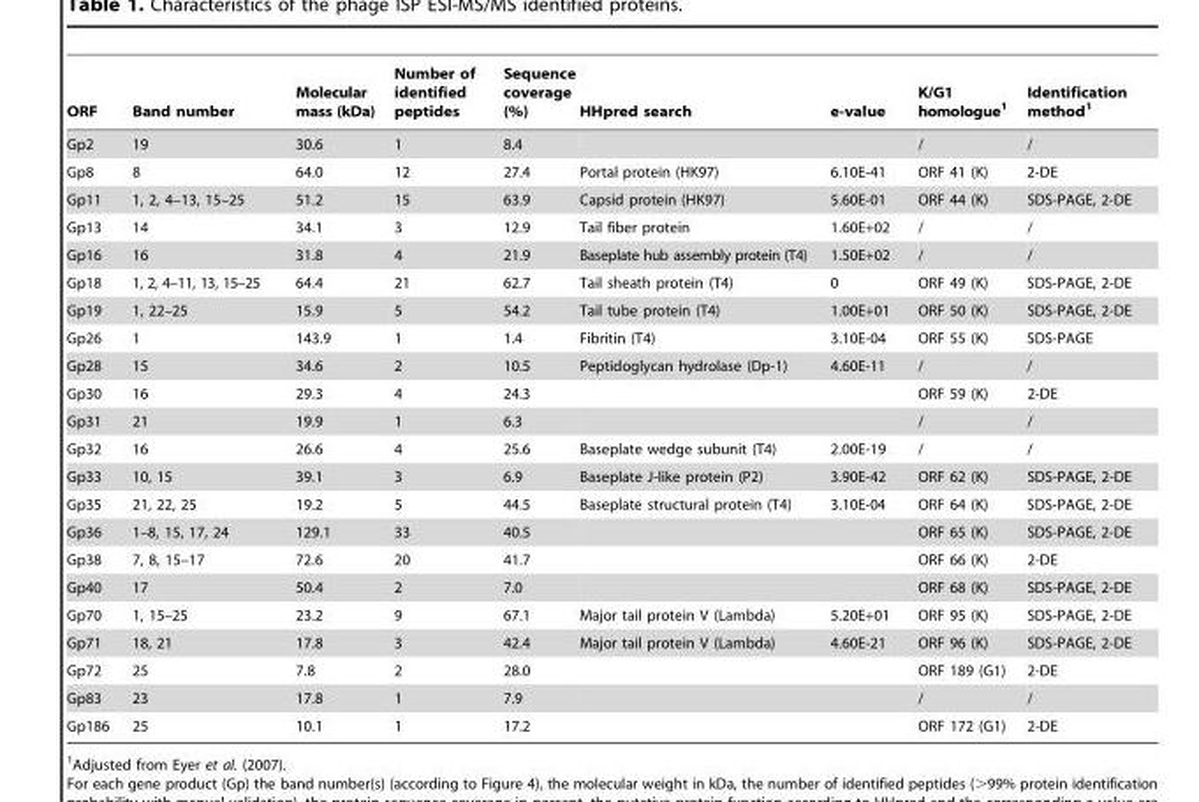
<table><thead><tr><td>ORF</td><td>Band number</td><td>Molecular mass (kDa)</td><td>Number of identified peptides</td><td>Sequence coverage (%)</td><td>HHpred search</td><td>e-value</td><td>K/G1 homologue<sup>1</sup></td><td>Identification method<sup>1</sup></td></tr></thead><tbody><tr><td>Gp2</td><td>19</td><td>30.6</td><td>1</td><td>8.4</td><td></td><td></td><td>/</td><td>/</td></tr><tr><td>Gp8</td><td>8</td><td>64.0</td><td>12</td><td>27.4</td><td>Portal protein (HK97)</td><td>6.10E-41</td><td>ORF 41 (K)</td><td>2-DE</td></tr><tr><td>Gp11</td><td>1, 2, 4–13, 15–25</td><td>51.2</td><td>15</td><td>63.9</td><td>Capsid protein (HK97)</td><td>5.60E-01</td><td>ORF 44 (K)</td><td>SDS-PAGE, 2-DE</td></tr><tr><td>Gp13</td><td>14</td><td>34.1</td><td>3</td><td>12.9</td><td>Tail fiber protein</td><td>1.60E+02</td><td>/</td><td>/</td></tr><tr><td>Gp16</td><td>16</td><td>31.8</td><td>4</td><td>21.9</td><td>Baseplate hub assembly protein (T4)</td><td>1.50E+02</td><td>/</td><td>/</td></tr><tr><td>Gp18</td><td>1, 2, 4–11, 13, 15–25</td><td>64.4</td><td>21</td><td>62.7</td><td>Tail sheath protein (T4)</td><td>0</td><td>ORF 49 (K)</td><td>SDS-PAGE, 2-DE</td></tr><tr><td>Gp19</td><td>1, 22–25</td><td>15.9</td><td>5</td><td>54.2</td><td>Tail tube protein (T4)</td><td>1.00E+01</td><td>ORF 50 (K)</td><td>SDS-PAGE, 2-DE</td></tr><tr><td>Gp26</td><td>1</td><td>143.9</td><td>1</td><td>1.4</td><td>Fibritin (T4)</td><td>3.10E-04</td><td>ORF 55 (K)</td><td>SDS-PAGE</td></tr><tr><td>Gp28</td><td>15</td><td>34.6</td><td>2</td><td>10.5</td><td>Peptidoglycan hydrolase (Dp-1)</td><td>4.60E-11</td><td>/</td><td>/</td></tr><tr><td>Gp30</td><td>16</td><td>29.3</td><td>4</td><td>24.3</td><td></td><td></td><td>ORF 59 (K)</td><td>2-DE</td></tr><tr><td>Gp31</td><td>21</td><td>19.9</td><td>1</td><td>6.3</td><td></td><td></td><td>/</td><td>/</td></tr><tr><td>Gp32</td><td>16</td><td>26.6</td><td>4</td><td>25.6</td><td>Baseplate wedge subunit (T4)</td><td>2.00E-19</td><td>/</td><td>/</td></tr><tr><td>Gp33</td><td>10, 15</td><td>39.1</td><td>3</td><td>6.9</td><td>Baseplate J-like protein (P2)</td><td>3.90E-42</td><td>ORF 62 (K)</td><td>SDS-PAGE, 2-DE</td></tr><tr><td>Gp35</td><td>21, 22, 25</td><td>19.2</td><td>5</td><td>44.5</td><td>Baseplate structural protein (T4)</td><td>3.10E-04</td><td>ORF 64 (K)</td><td>SDS-PAGE, 2-DE</td></tr><tr><td>Gp36</td><td>1–8, 15, 17, 24</td><td>129.1</td><td>33</td><td>40.5</td><td></td><td></td><td>ORF 65 (K)</td><td>SDS-PAGE, 2-DE</td></tr><tr><td>Gp38</td><td>7, 8, 15–17</td><td>72.6</td><td>20</td><td>41.7</td><td></td><td></td><td>ORF 66 (K)</td><td>2-DE</td></tr><tr><td>Gp40</td><td>17</td><td>50.4</td><td>2</td><td>7.0</td><td></td><td></td><td>ORF 68 (K)</td><td>SDS-PAGE, 2-DE</td></tr><tr><td>Gp70</td><td>1, 15–25</td><td>23.2</td><td>9</td><td>67.1</td><td>Major tail protein V (Lambda)</td><td>5.20E+01</td><td>ORF 95 (K)</td><td>SDS-PAGE, 2-DE</td></tr><tr><td>Gp71</td><td>18, 21</td><td>17.8</td><td>3</td><td>42.4</td><td>Major tail protein V (Lambda)</td><td>4.60E-21</td><td>ORF 96 (K)</td><td>SDS-PAGE, 2-DE</td></tr><tr><td>Gp72</td><td>25</td><td>7.8</td><td>2</td><td>28.0</td><td></td><td></td><td>ORF 189 (G1)</td><td>2-DE</td></tr><tr><td>Gp83</td><td>23</td><td>17.8</td><td>1</td><td>7.9</td><td></td><td></td><td>/</td><td>/</td></tr><tr><td>Gp186</td><td>25</td><td>10.1</td><td>1</td><td>17.2</td><td></td><td></td><td>ORF 172 (G1)</td><td>2-DE</td></tr></tbody></table>